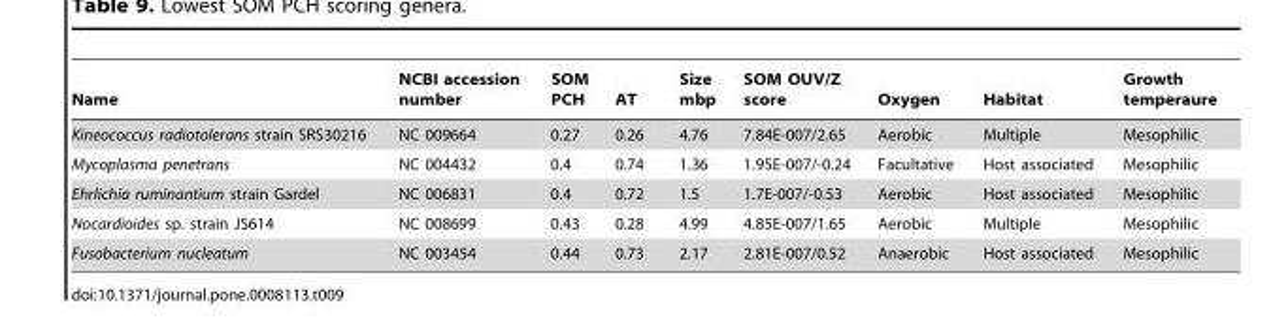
<table><thead><tr><td>Name</td><td>NCBI accession number</td><td>SOM PCH</td><td>AT</td><td>Size mbp</td><td>SOM OUV/Z score</td><td>Oxygen</td><td>Habitat</td><td>Growth temperaure</td></tr></thead><tbody><tr><td>Kineococcus radiotolerans strain SRS30216</td><td>NC 009664</td><td>0.27</td><td>0.26</td><td>4.76</td><td>7.84E-007/2.65</td><td>Aerobic</td><td>Multiple</td><td>Mesophilic</td></tr><tr><td>Mycoplasma penetrans</td><td>NC 004432</td><td>0.4</td><td>0.74</td><td>1.36</td><td>1.95E-007/-0.24</td><td>Facultative</td><td>Host associated</td><td>Mesophilic</td></tr><tr><td>Ehrlichia ruminantium strain Gardel</td><td>NC 006831</td><td>0.4</td><td>0.72</td><td>1.5</td><td>1.7E-007/-0.53</td><td>Aerobic</td><td>Host associated</td><td>Mesophilic</td></tr><tr><td>Nocardioides sp. strain JS614</td><td>NC 008699</td><td>0.43</td><td>0.28</td><td>4.99</td><td>4.85E-007/1.65</td><td>Aerobic</td><td>Multiple</td><td>Mesophilic</td></tr><tr><td>Fusobacterium nucleatum</td><td>NC 003454</td><td>0.44</td><td>0.73</td><td>2.17</td><td>2.81E-007/0.52</td><td>Anaerobic</td><td>Host associated</td><td>Mesophilic</td></tr></tbody></table>